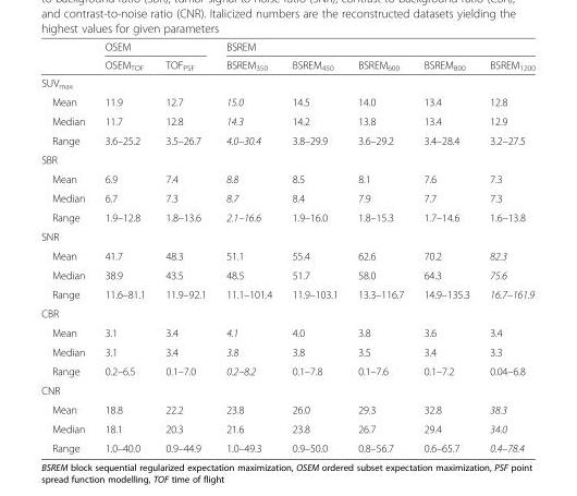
<table><thead><tr><td rowspan="2"></td><td colspan="2">OSEM</td><td colspan="5">BSREM</td></tr><tr><td>OSEM<sub>TOF</sub></td><td>TOF<sub>PSF</sub></td><td>BSREM<sub>350</sub></td><td>BSREM<sub>450</sub></td><td>BSREM<sub>600</sub></td><td>BSREM<sub>800</sub></td><td>BSREM<sub>1200</sub></td></tr></thead><tbody><tr><td colspan="8">SUV<sub>max</sub></td></tr><tr><td>Mean</td><td>11.9</td><td>12.7</td><td>15.0</td><td>14.5</td><td>14.0</td><td>13.4</td><td>12.8</td></tr><tr><td>Median</td><td>11.7</td><td>12.8</td><td>14.3</td><td>14.2</td><td>13.8</td><td>13.4</td><td>12.9</td></tr><tr><td>Range</td><td>3.6–25.2</td><td>3.5–26.7</td><td>4.0–30.4</td><td>3.8–29.9</td><td>3.6–29.2</td><td>3.4–28.4</td><td>3.2–27.5</td></tr><tr><td colspan="8">SBR</td></tr><tr><td>Mean</td><td>6.9</td><td>7.4</td><td>8.8</td><td>8.5</td><td>8.1</td><td>7.6</td><td>7.3</td></tr><tr><td>Median</td><td>6.7</td><td>7.3</td><td>8.7</td><td>8.4</td><td>7.9</td><td>7.7</td><td>7.3</td></tr><tr><td>Range</td><td>1.9–12.8</td><td>1.8–13.6</td><td>2.1–16.6</td><td>1.9–16.0</td><td>1.8–15.3</td><td>1.7–14.6</td><td>1.6–13.8</td></tr><tr><td colspan="8">SNR</td></tr><tr><td>Mean</td><td>41.7</td><td>48.3</td><td>51.1</td><td>55.4</td><td>62.6</td><td>70.2</td><td>82.3</td></tr><tr><td>Median</td><td>38.9</td><td>43.5</td><td>48.5</td><td>51.7</td><td>58.0</td><td>64.3</td><td>75.6</td></tr><tr><td>Range</td><td>11.6–81.1</td><td>11.9–92.1</td><td>11.1–101.4</td><td>11.9–103.1</td><td>13.3–116.7</td><td>14.9–135.3</td><td>16.7–161.9</td></tr><tr><td colspan="8">CBR</td></tr><tr><td>Mean</td><td>3.1</td><td>3.4</td><td>4.1</td><td>4.0</td><td>3.8</td><td>3.6</td><td>3.4</td></tr><tr><td>Median</td><td>3.1</td><td>3.4</td><td>3.8</td><td>3.8</td><td>3.5</td><td>3.4</td><td>3.3</td></tr><tr><td>Range</td><td>0.2–6.5</td><td>0.1–7.0</td><td>0.2–8.2</td><td>0.1–7.8</td><td>0.1–7.6</td><td>0.1–7.2</td><td>0.04–6.8</td></tr><tr><td colspan="8">CNR</td></tr><tr><td>Mean</td><td>18.8</td><td>22.2</td><td>23.8</td><td>26.0</td><td>29.3</td><td>32.8</td><td>38.3</td></tr><tr><td>Median</td><td>18.1</td><td>20.3</td><td>21.6</td><td>23.8</td><td>26.7</td><td>29.4</td><td>34.0</td></tr><tr><td>Range</td><td>1.0–40.0</td><td>0.9–44.9</td><td>1.0–49.3</td><td>0.9–50.0</td><td>0.8–56.7</td><td>0.6–65.7</td><td>0.4–78.4</td></tr></tbody></table>